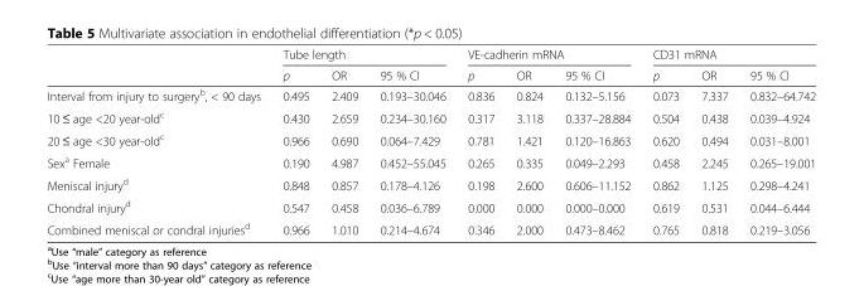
<table><thead><tr><td rowspan="2"></td><td colspan="3">Tube length</td><td colspan="3">VE-cadherin mRNA</td><td colspan="3">CD31 mRNA</td></tr><tr><td>p</td><td>OR</td><td>95 % CI</td><td>p</td><td>OR</td><td>95 % CI</td><td>p</td><td>OR</td><td>95 % CI</td></tr></thead><tbody><tr><td>Interval from injury to surgery<sup>b</sup>, &lt; 90 days</td><td>0.495</td><td>2.409</td><td>0.193–30.046</td><td>0.836</td><td>0.824</td><td>0.132–5.156</td><td>0.073</td><td>7.337</td><td>0.832–64.742</td></tr><tr><td>10 ≤ age &lt;20 year-old<sup>c</sup></td><td>0.430</td><td>2.659</td><td>0.234–30.160</td><td>0.317</td><td>3.118</td><td>0.337–28.884</td><td>0.504</td><td>0.438</td><td>0.039–4.924</td></tr><tr><td>20 ≤ age &lt;30 year-old<sup>c</sup></td><td>0.966</td><td>0.690</td><td>0.064–7.429</td><td>0.781</td><td>1.421</td><td>0.120–16.863</td><td>0.620</td><td>0.494</td><td>0.031–8.001</td></tr><tr><td>Sex<sup>a</sup> Female</td><td>0.190</td><td>4.987</td><td>0.452–55.045</td><td>0.265</td><td>0.335</td><td>0.049–2.293</td><td>0.458</td><td>2.245</td><td>0.265–19.001</td></tr><tr><td>Meniscal injury<sup>d</sup></td><td>0.848</td><td>0.857</td><td>0.178–4.126</td><td>0.198</td><td>2.600</td><td>0.606–11.152</td><td>0.862</td><td>1.125</td><td>0.298–4.241</td></tr><tr><td>Chondral injury<sup>d</sup></td><td>0.547</td><td>0.458</td><td>0.036–6.789</td><td>0.000</td><td>0.000</td><td>0.000–0.000</td><td>0.619</td><td>0.531</td><td>0.044–6.444</td></tr><tr><td>Combined meniscal or condral injuries<sup>d</sup></td><td>0.966</td><td>1.010</td><td>0.214–4.674</td><td>0.346</td><td>2.000</td><td>0.473–8.462</td><td>0.765</td><td>0.818</td><td>0.219–3.056</td></tr></tbody></table>